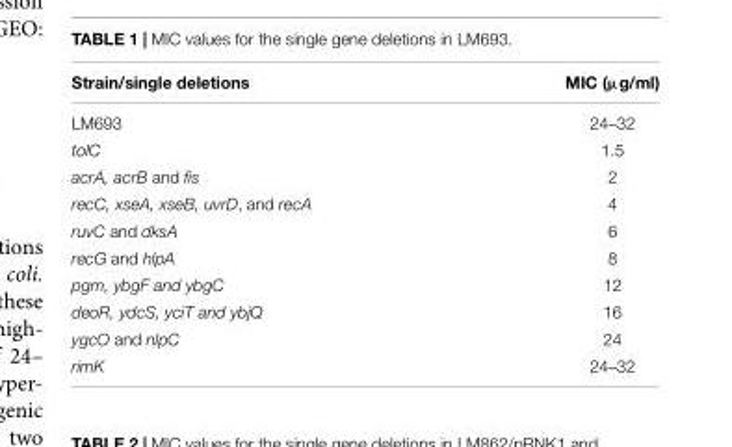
<table><thead><tr><td>Strain/single deletions</td><td>MIC (µg/ml)</td></tr></thead><tbody><tr><td>LM693</td><td>24–32</td></tr><tr><td>tolC</td><td>1.5</td></tr><tr><td>acrA, acrB and fis</td><td>2</td></tr><tr><td>recC, xseA, xseB, uvrD, and recA</td><td>4</td></tr><tr><td>ruvC and dksA</td><td>6</td></tr><tr><td>recG and hlpA</td><td>8</td></tr><tr><td>pgm, ybgF and ybgC</td><td>12</td></tr><tr><td>deoR, ydcS, yciT and ybjQ</td><td>16</td></tr><tr><td>ygcO and nlpC</td><td>24</td></tr><tr><td>rimK</td><td>24–32</td></tr></tbody></table>